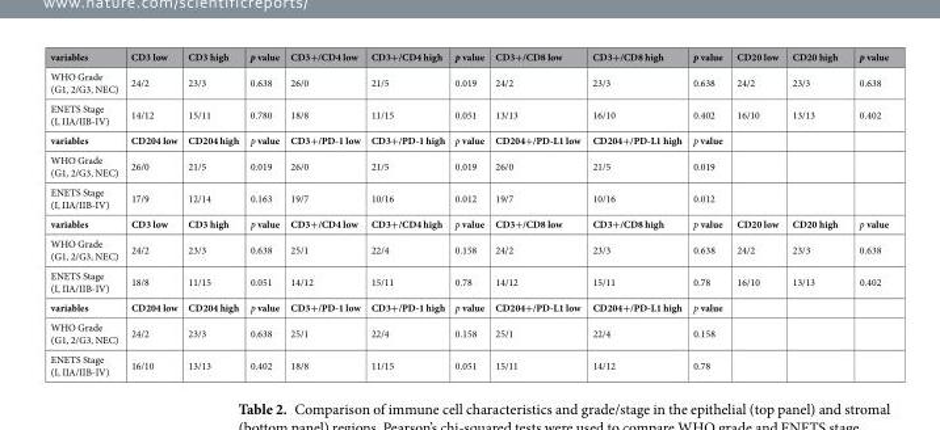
<table><thead><tr><td>variables</td><td>CD3 low</td><td>CD3 high</td><td>p value</td><td>CD3+/CD4 low</td><td>CD3+/CD4 high</td><td>p value</td><td>CD3+/CD8 low</td><td>CD3+/CD8 high</td><td>p value</td><td>CD20 low</td><td>CD20 high</td><td>p value</td></tr></thead><tbody><tr><td>WHO Grade (G1, 2/G3, NEC)</td><td>24/2</td><td>23/3</td><td>0.638</td><td>26/0</td><td>21/5</td><td>0.019</td><td>24/2</td><td>23/3</td><td>0.638</td><td>24/2</td><td>23/3</td><td>0.638</td></tr><tr><td>ENETS Stage (I, IIA/IIB-IV)</td><td>14/12</td><td>15/11</td><td>0.780</td><td>18/8</td><td>11/15</td><td>0.051</td><td>13/13</td><td>16/10</td><td>0.402</td><td>16/10</td><td>13/13</td><td>0.402</td></tr><tr><td>variables</td><td>CD204 low</td><td>CD204 high</td><td>p value</td><td>CD3+/PD-1 low</td><td>CD3+/PD-1 high</td><td>p value</td><td>CD204+/PD-L1 low</td><td>CD204+/PD-L1 high</td><td>p value</td><td></td><td></td><td></td></tr><tr><td>WHO Grade (G1, 2/G3, NEC)</td><td>26/0</td><td>21/5</td><td>0.019</td><td>26/0</td><td>21/5</td><td>0.019</td><td>26/0</td><td>21/5</td><td>0.019</td><td></td><td></td><td></td></tr><tr><td>ENETS Stage (I, IIA/IIB-IV)</td><td>17/9</td><td>12/14</td><td>0.163</td><td>19/7</td><td>10/16</td><td>0.012</td><td>19/7</td><td>10/16</td><td>0.012</td><td></td><td></td><td></td></tr><tr><td>variables</td><td>CD3 low</td><td>CD3 high</td><td>p value</td><td>CD3+/CD4 low</td><td>CD3+/CD4 high</td><td>p value</td><td>CD3+/CD8 low</td><td>CD3+/CD8 high</td><td>p value</td><td>CD20 low</td><td>CD20 high</td><td>p value</td></tr><tr><td>WHO Grade (G1, 2/G3, NEC)</td><td>24/2</td><td>23/3</td><td>0.638</td><td>25/1</td><td>22/4</td><td>0.158</td><td>24/2</td><td>23/3</td><td>0.638</td><td>24/2</td><td>23/3</td><td>0.638</td></tr><tr><td>ENETS Stage (I, IIA/IIB-IV)</td><td>18/8</td><td>11/15</td><td>0.051</td><td>14/12</td><td>15/11</td><td>0.78</td><td>14/12</td><td>15/11</td><td>0.78</td><td>16/10</td><td>13/13</td><td>0.402</td></tr><tr><td>variables</td><td>CD204 low</td><td>CD204 high</td><td>p value</td><td>CD3+/PD-1 low</td><td>CD3+/PD-1 high</td><td>p value</td><td>CD204+/PD-L1 low</td><td>CD204+/PD-L1 high</td><td>p value</td><td></td><td></td><td></td></tr><tr><td>WHO Grade (G1, 2/G3, NEC)</td><td>24/2</td><td>23/3</td><td>0.638</td><td>25/1</td><td>22/4</td><td>0.158</td><td>25/1</td><td>22/4</td><td>0.158</td><td></td><td></td><td></td></tr><tr><td>ENETS Stage (I, IIA/IIB-IV)</td><td>16/10</td><td>13/13</td><td>0.402</td><td>18/8</td><td>11/15</td><td>0.051</td><td>15/11</td><td>14/12</td><td>0.78</td><td></td><td></td><td></td></tr></tbody></table>